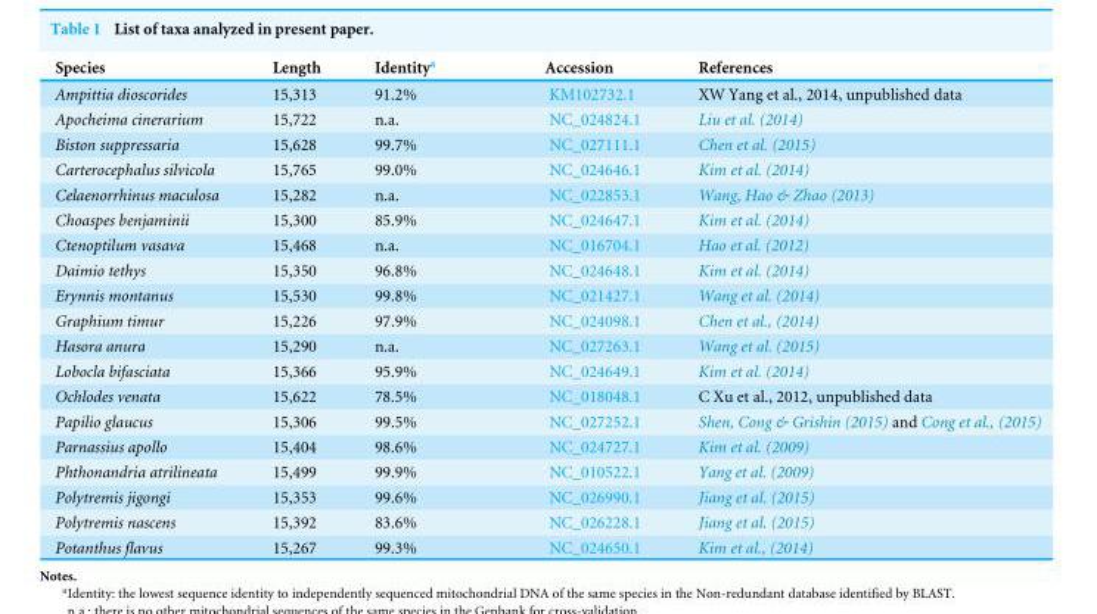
<table><thead><tr><td>Species</td><td>Length</td><td>Identity<sup>a</sup></td><td>Accession</td><td>References</td></tr></thead><tbody><tr><td>Ampittia dioscorides</td><td>15,313</td><td>91.2%</td><td>KM102732.1</td><td>XW Yang et al., 2014, unpublished data</td></tr><tr><td>Apocheima cinerarium</td><td>15,722</td><td>n.a.</td><td>NC_024824.1</td><td>Liu et al. (2014)</td></tr><tr><td>Biston suppressaria</td><td>15,628</td><td>99.7%</td><td>NC_027111.1</td><td>Chen et al. (2015)</td></tr><tr><td>Carterocephalus silvicola</td><td>15,765</td><td>99.0%</td><td>NC_024646.1</td><td>Kim et al. (2014)</td></tr><tr><td>Celaenorrhinus maculosa</td><td>15,282</td><td>n.a.</td><td>NC_022853.1</td><td>Wang, Hao &amp; Zhao (2013)</td></tr><tr><td>Choaspes benjaminii</td><td>15,300</td><td>85.9%</td><td>NC_024647.1</td><td>Kim et al. (2014)</td></tr><tr><td>Ctenoptilum vasava</td><td>15,468</td><td>n.a.</td><td>NC_016704.1</td><td>Hao et al. (2012)</td></tr><tr><td>Daimio tethys</td><td>15,350</td><td>96.8%</td><td>NC_024648.1</td><td>Kim et al. (2014)</td></tr><tr><td>Erynnis montanus</td><td>15,530</td><td>99.8%</td><td>NC_021427.1</td><td>Wang et al. (2014)</td></tr><tr><td>Graphium timur</td><td>15,226</td><td>97.9%</td><td>NC_024098.1</td><td>Chen et al., (2014)</td></tr><tr><td>Hasora anura</td><td>15,290</td><td>n.a.</td><td>NC_027263.1</td><td>Wang et al. (2015)</td></tr><tr><td>Lobocla bifasciata</td><td>15,366</td><td>95.9%</td><td>NC_024649.1</td><td>Kim et al. (2014)</td></tr><tr><td>Ochlodes venata</td><td>15,622</td><td>78.5%</td><td>NC_018048.1</td><td>C Xu et al., 2012, unpublished data</td></tr><tr><td>Papilio glaucus</td><td>15,306</td><td>99.5%</td><td>NC_027252.1</td><td>Shen, Cong &amp; Grishin (2015) and Cong et al., (2015)</td></tr><tr><td>Parnassius apollo</td><td>15,404</td><td>98.6%</td><td>NC_024727.1</td><td>Kim et al. (2009)</td></tr><tr><td>Phthonandria atrilineata</td><td>15,499</td><td>99.9%</td><td>NC_010522.1</td><td>Yang et al. (2009)</td></tr><tr><td>Polytremis jigongi</td><td>15,353</td><td>99.6%</td><td>NC_026990.1</td><td>Jiang et al. (2015)</td></tr><tr><td>Polytremis nascens</td><td>15,392</td><td>83.6%</td><td>NC_026228.1</td><td>Jiang et al. (2015)</td></tr><tr><td>Potanthus flavus</td><td>15,267</td><td>99.3%</td><td>NC_024650.1</td><td>Kim et al., (2014)</td></tr></tbody></table>